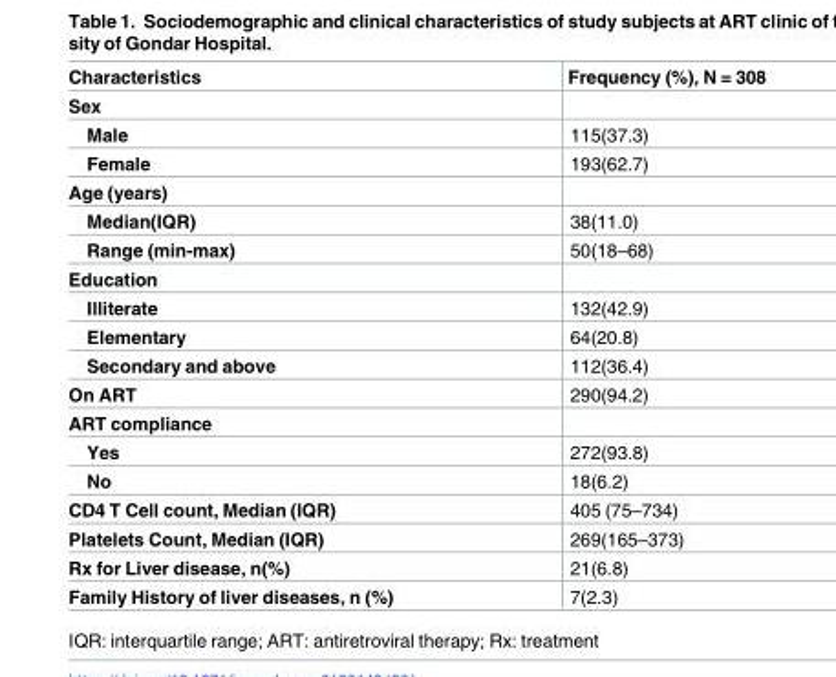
<table><thead><tr><td>Characteristics</td><td>Frequency (%), N = 308</td></tr></thead><tbody><tr><td colspan="2">Sex</td></tr><tr><td>Male</td><td>115(37.3)</td></tr><tr><td>Female</td><td>193(62.7)</td></tr><tr><td colspan="2">Age (years)</td></tr><tr><td>Median(IQR)</td><td>38(11.0)</td></tr><tr><td>Range (min-max)</td><td>50(18–68)</td></tr><tr><td colspan="2">Education</td></tr><tr><td>Illiterate</td><td>132(42.9)</td></tr><tr><td>Elementary</td><td>64(20.8)</td></tr><tr><td>Secondary and above</td><td>112(36.4)</td></tr><tr><td>On ART</td><td>290(94.2)</td></tr><tr><td colspan="2">ART compliance</td></tr><tr><td>Yes</td><td>272(93.8)</td></tr><tr><td>No</td><td>18(6.2)</td></tr><tr><td>CD4 T Cell count, Median (IQR)</td><td>405 (75–734)</td></tr><tr><td>Platelets Count, Median (IQR)</td><td>269(165–373)</td></tr><tr><td>Rx for Liver disease, n(%)</td><td>21(6.8)</td></tr><tr><td>Family History of liver diseases, n (%)</td><td>7(2.3)</td></tr></tbody></table>